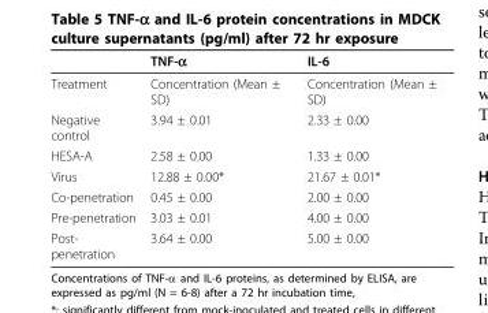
<table><thead><tr><td></td><td>TNF-α</td><td>IL-6</td></tr></thead><tbody><tr><td>Treatment</td><td>Concentration (Mean ± SD)</td><td>Concentration (Mean ± SD)</td></tr><tr><td>Negative control</td><td>3.94 ± 0.01</td><td>2.33 ± 0.00</td></tr><tr><td>HESA-A</td><td>2.58 ± 0.00</td><td>1.33 ± 0.00</td></tr><tr><td>Virus</td><td>12.88 ± 0.00*</td><td>21.67 ± 0.01*</td></tr><tr><td>Co-penetration</td><td>0.45 ± 0.00</td><td>2.00 ± 0.00</td></tr><tr><td>Pre-penetration</td><td>3.03 ± 0.01</td><td>4.00 ± 0.00</td></tr><tr><td>Post- penetration</td><td>3.64 ± 0.00</td><td>5.00 ± 0.00</td></tr></tbody></table>